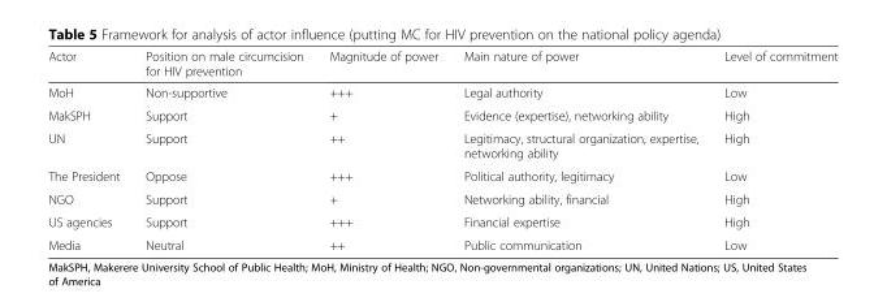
<table><thead><tr><td>Actor</td><td>Position on male circumcision for HIV prevention</td><td>Magnitude of power</td><td>Main nature of power</td><td>Level of commitment</td></tr></thead><tbody><tr><td>MoH</td><td>Non-supportive</td><td>+++</td><td>Legal authority</td><td>Low</td></tr><tr><td>MakSPH</td><td>Support</td><td>+</td><td>Evidence (expertise), networking ability</td><td>High</td></tr><tr><td>UN</td><td>Support</td><td>++</td><td>Legitimacy, structural organization, expertise, networking ability</td><td>High</td></tr><tr><td>The President</td><td>Oppose</td><td>+++</td><td>Political authority, legitimacy</td><td>Low</td></tr><tr><td>NGO</td><td>Support</td><td>+</td><td>Networking ability, financial</td><td>High</td></tr><tr><td>US agencies</td><td>Support</td><td>+++</td><td>Financial expertise</td><td>High</td></tr><tr><td>Media</td><td>Neutral</td><td>++</td><td>Public communication</td><td>Low</td></tr></tbody></table>